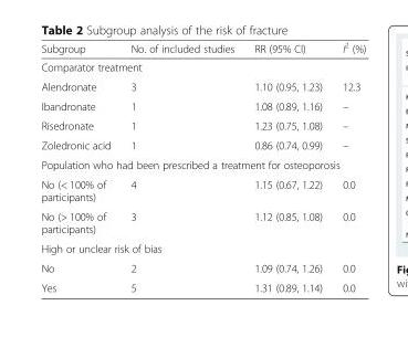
<table><thead><tr><td>Subgroup</td><td>No. of included studies</td><td>RR (95% CI)</td><td>I<sup>2</sup> (%)</td></tr></thead><tbody><tr><td colspan="4">Comparator treatment</td></tr><tr><td>Alendronate</td><td>3</td><td>1.10 (0.95, 1.23)</td><td>12.3</td></tr><tr><td>Ibandronate</td><td>1</td><td>1.08 (0.89, 1.16)</td><td>–</td></tr><tr><td>Risedronate</td><td>1</td><td>1.23 (0.75, 1.08)</td><td>–</td></tr><tr><td>Zoledronic acid</td><td>1</td><td>0.86 (0.74, 0.99)</td><td>–</td></tr><tr><td colspan="4">Population who had been prescribed a treatment for osteoporosis</td></tr><tr><td>No (&lt; 100% of participants)</td><td>4</td><td>1.15 (0.67, 1.22)</td><td>0.0</td></tr><tr><td>No (&gt; 100% of participants)</td><td>3</td><td>1.12 (0.85, 1.08)</td><td>0.0</td></tr><tr><td colspan="4">High or unclear risk of bias</td></tr><tr><td>No</td><td>2</td><td>1.09 (0.74, 1.26)</td><td>0.0</td></tr><tr><td>Yes</td><td>5</td><td>1.31 (0.89, 1.14)</td><td>0.0</td></tr></tbody></table>